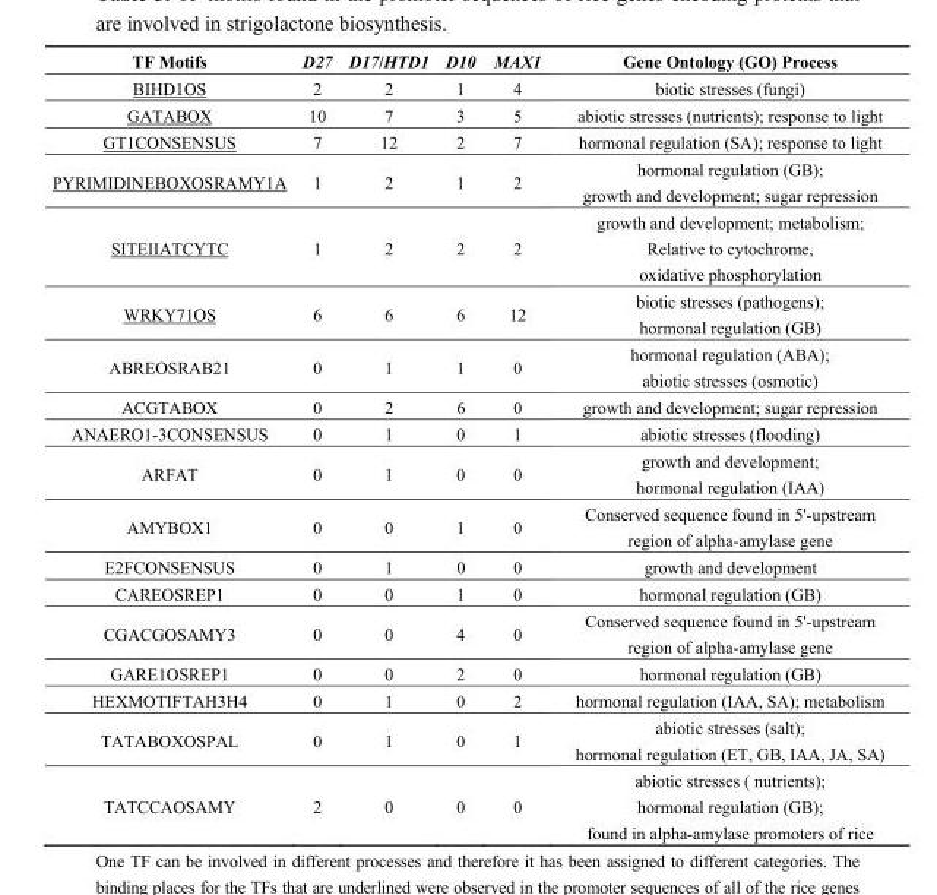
<table><thead><tr><td>TF Motifs</td><td>D27</td><td>D17/HTD1</td><td>D10</td><td>MAX1</td><td>Gene Ontology (GO) Process</td></tr></thead><tbody><tr><td>BIHD1OS</td><td>2</td><td>2</td><td>1</td><td>4</td><td>biotic stresses (fungi)</td></tr><tr><td>GATABOX</td><td>10</td><td>7</td><td>3</td><td>5</td><td>abiotic stresses (nutrients); response to light</td></tr><tr><td>GT1CONSENSUS</td><td>7</td><td>12</td><td>2</td><td>7</td><td>hormonal regulation (SA); response to light</td></tr><tr><td>PYRIMIDINEBOXOSRAMY1A</td><td>1</td><td>2</td><td>1</td><td>2</td><td>hormonal regulation (GB); growth and development; sugar repression</td></tr><tr><td>SITEIIATCYTC</td><td>1</td><td>2</td><td>2</td><td>2</td><td>growth and development; metabolism; Relative to cytochrome, oxidative phosphorylation</td></tr><tr><td>WRKY71OS</td><td>6</td><td>6</td><td>6</td><td>12</td><td>biotic stresses (pathogens); hormonal regulation (GB)</td></tr><tr><td>ABREOSRAB21</td><td>0</td><td>1</td><td>1</td><td>0</td><td>hormonal regulation (ABA); abiotic stresses (osmotic)</td></tr><tr><td>ACGTABOX</td><td>0</td><td>2</td><td>6</td><td>0</td><td>growth and development; sugar repression</td></tr><tr><td>ANAERO1-3CONSENSUS</td><td>0</td><td>1</td><td>0</td><td>1</td><td>abiotic stresses (flooding)</td></tr><tr><td>ARFAT</td><td>0</td><td>1</td><td>0</td><td>0</td><td>growth and development; hormonal regulation (IAA)</td></tr><tr><td>AMYBOX1</td><td>0</td><td>0</td><td>1</td><td>0</td><td>Conserved sequence found in 5&#x27;-upstream region of alpha-amylase gene</td></tr><tr><td>E2FCONSENSUS</td><td>0</td><td>1</td><td>0</td><td>0</td><td>growth and development</td></tr><tr><td>CAREOSREP1</td><td>0</td><td>0</td><td>1</td><td>0</td><td>hormonal regulation (GB)</td></tr><tr><td>CGACGOSAMY3</td><td>0</td><td>0</td><td>4</td><td>0</td><td>Conserved sequence found in 5&#x27;-upstream region of alpha-amylase gene</td></tr><tr><td>GARE1OSREP1</td><td>0</td><td>0</td><td>2</td><td>0</td><td>hormonal regulation (GB)</td></tr><tr><td>HEXMOTIFTAH3H4</td><td>0</td><td>1</td><td>0</td><td>2</td><td>hormonal regulation (IAA, SA); metabolism</td></tr><tr><td>TATABOXOSPAL</td><td>0</td><td>1</td><td>0</td><td>1</td><td>abiotic stresses (salt); hormonal regulation (ET, GB, IAA, JA, SA)</td></tr><tr><td>TATCCAOSAMY</td><td>2</td><td>0</td><td>0</td><td>0</td><td>abiotic stresses ( nutrients); hormonal regulation (GB); found in alpha-amylase promoters of rice</td></tr></tbody></table>